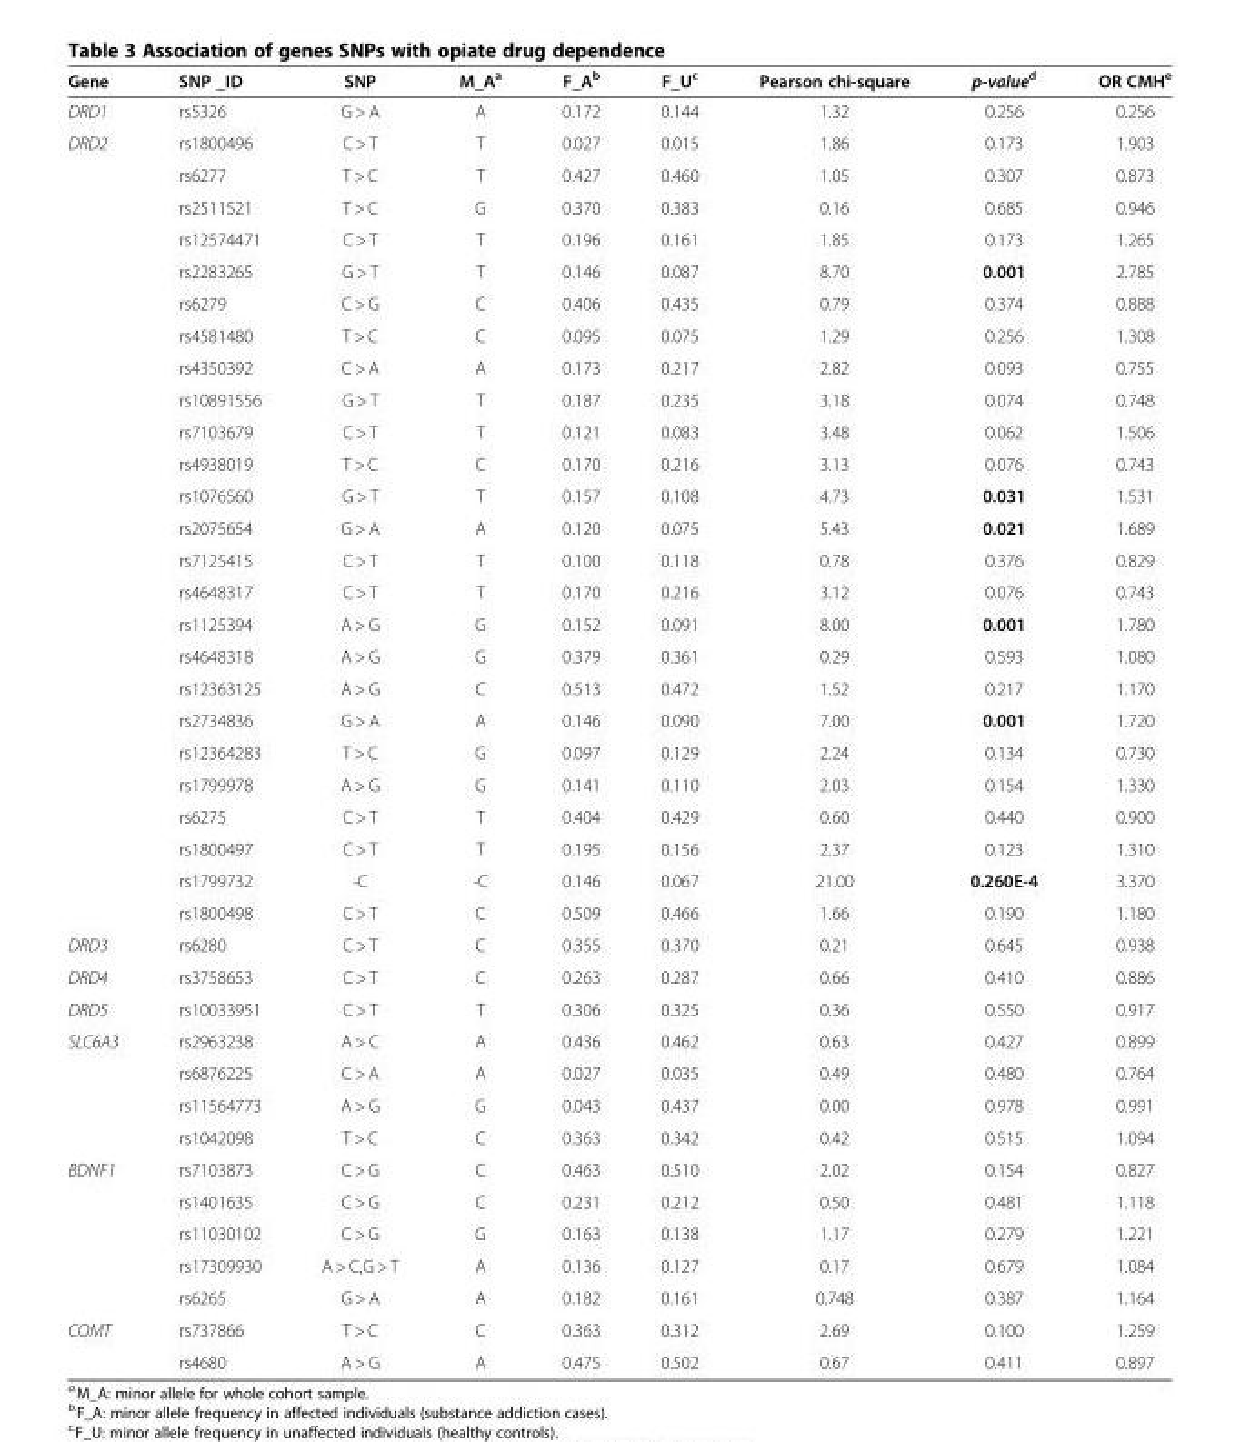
<table><thead><tr><td>Gene</td><td>SNP _ID</td><td>SNP</td><td>M_A<sup>a</sup></td><td>F_A<sup>b</sup></td><td>F_U<sup>c</sup></td><td>Pearson chi-square</td><td>p-value<sup>d</sup></td><td>OR CMH<sup>e</sup></td></tr></thead><tbody><tr><td>DRD1</td><td>rs5326</td><td>G &gt; A</td><td>A</td><td>0.172</td><td>0.144</td><td>1.32</td><td>0.256</td><td>0.256</td></tr><tr><td rowspan="25">DRD2</td><td>rs1800496</td><td>C &gt; T</td><td>T</td><td>0.027</td><td>0.015</td><td>1.86</td><td>0.173</td><td>1.903</td></tr><tr><td>rs6277</td><td>T &gt; C</td><td>T</td><td>0.427</td><td>0.460</td><td>1.05</td><td>0.307</td><td>0.873</td></tr><tr><td>rs2511521</td><td>T &gt; C</td><td>G</td><td>0.370</td><td>0.383</td><td>0.16</td><td>0.685</td><td>0.946</td></tr><tr><td>rs12574471</td><td>C &gt; T</td><td>T</td><td>0.196</td><td>0.161</td><td>1.85</td><td>0.173</td><td>1.265</td></tr><tr><td>rs2283265</td><td>G &gt; T</td><td>T</td><td>0.146</td><td>0.087</td><td>8.70</td><td>0.001</td><td>2.785</td></tr><tr><td>rs6279</td><td>C &gt; G</td><td>C</td><td>0.406</td><td>0.435</td><td>0.79</td><td>0.374</td><td>0.888</td></tr><tr><td>rs4581480</td><td>T &gt; C</td><td>C</td><td>0.095</td><td>0.075</td><td>1.29</td><td>0.256</td><td>1.308</td></tr><tr><td>rs4350392</td><td>C &gt; A</td><td>A</td><td>0.173</td><td>0.217</td><td>2.82</td><td>0.093</td><td>0.755</td></tr><tr><td>rs10891556</td><td>G &gt; T</td><td>T</td><td>0.187</td><td>0.235</td><td>3.18</td><td>0.074</td><td>0.748</td></tr><tr><td>rs7103679</td><td>C &gt; T</td><td>T</td><td>0.121</td><td>0.083</td><td>3.48</td><td>0.062</td><td>1.506</td></tr><tr><td>rs4938019</td><td>T &gt; C</td><td>C</td><td>0.170</td><td>0.216</td><td>3.13</td><td>0.076</td><td>0.743</td></tr><tr><td>rs1076560</td><td>G &gt; T</td><td>T</td><td>0.157</td><td>0.108</td><td>4.73</td><td>0.031</td><td>1.531</td></tr><tr><td>rs2075654</td><td>G &gt; A</td><td>A</td><td>0.120</td><td>0.075</td><td>5.43</td><td>0.021</td><td>1.689</td></tr><tr><td>rs7125415</td><td>C &gt; T</td><td>T</td><td>0.100</td><td>0.118</td><td>0.78</td><td>0.376</td><td>0.829</td></tr><tr><td>rs4648317</td><td>C &gt; T</td><td>T</td><td>0.170</td><td>0.216</td><td>3.12</td><td>0.076</td><td>0.743</td></tr><tr><td>rs1125394</td><td>A &gt; G</td><td>G</td><td>0.152</td><td>0.091</td><td>8.00</td><td>0.001</td><td>1.780</td></tr><tr><td>rs4648318</td><td>A &gt; G</td><td>G</td><td>0.379</td><td>0.361</td><td>0.29</td><td>0.593</td><td>1.080</td></tr><tr><td>rs12363125</td><td>A &gt; G</td><td>C</td><td>0.513</td><td>0.472</td><td>1.52</td><td>0.217</td><td>1.170</td></tr><tr><td>rs2734836</td><td>G &gt; A</td><td>A</td><td>0.146</td><td>0.090</td><td>7.00</td><td>0.001</td><td>1.720</td></tr><tr><td>rs12364283</td><td>T &gt; C</td><td>G</td><td>0.097</td><td>0.129</td><td>2.24</td><td>0.134</td><td>0.730</td></tr><tr><td>rs1799978</td><td>A &gt; G</td><td>G</td><td>0.141</td><td>0.110</td><td>2.03</td><td>0.154</td><td>1.330</td></tr><tr><td>rs6275</td><td>C &gt; T</td><td>T</td><td>0.404</td><td>0.429</td><td>0.60</td><td>0.440</td><td>0.900</td></tr><tr><td>rs1800497</td><td>C &gt; T</td><td>T</td><td>0.195</td><td>0.156</td><td>2.37</td><td>0.123</td><td>1.310</td></tr><tr><td>rs1799732</td><td>-C</td><td>-C</td><td>0.146</td><td>0.067</td><td>21.00</td><td>0.260E-4</td><td>3.370</td></tr><tr><td>rs1800498</td><td>C &gt; T</td><td>C</td><td>0.509</td><td>0.466</td><td>1.66</td><td>0.190</td><td>1.180</td></tr><tr><td>DRD3</td><td>rs6280</td><td>C &gt; T</td><td>C</td><td>0.355</td><td>0.370</td><td>0.21</td><td>0.645</td><td>0.938</td></tr><tr><td>DRD4</td><td>rs3758653</td><td>C &gt; T</td><td>C</td><td>0.263</td><td>0.287</td><td>0.66</td><td>0.410</td><td>0.886</td></tr><tr><td>DRD5</td><td>rs10033951</td><td>C &gt; T</td><td>T</td><td>0.306</td><td>0.325</td><td>0.36</td><td>0.550</td><td>0.917</td></tr><tr><td rowspan="4">SLC6A3</td><td>rs2963238</td><td>A &gt; C</td><td>A</td><td>0.436</td><td>0.462</td><td>0.63</td><td>0.427</td><td>0.899</td></tr><tr><td>rs6876225</td><td>C &gt; A</td><td>A</td><td>0.027</td><td>0.035</td><td>0.49</td><td>0.480</td><td>0.764</td></tr><tr><td>rs11564773</td><td>A &gt; G</td><td>G</td><td>0.043</td><td>0.437</td><td>0.00</td><td>0.978</td><td>0.991</td></tr><tr><td>rs1042098</td><td>T &gt; C</td><td>C</td><td>0.363</td><td>0.342</td><td>0.42</td><td>0.515</td><td>1.094</td></tr><tr><td rowspan="5">BDNF1</td><td>rs7103873</td><td>C &gt; G</td><td>C</td><td>0.463</td><td>0.510</td><td>2.02</td><td>0.154</td><td>0.827</td></tr><tr><td>rs1401635</td><td>C &gt; G</td><td>C</td><td>0.231</td><td>0.212</td><td>0.50</td><td>0.481</td><td>1.118</td></tr><tr><td>rs11030102</td><td>C &gt; G</td><td>G</td><td>0.163</td><td>0.138</td><td>1.17</td><td>0.279</td><td>1.221</td></tr><tr><td>rs17309930</td><td>A &gt; C,G &gt; T</td><td>A</td><td>0.136</td><td>0.127</td><td>0.17</td><td>0.679</td><td>1.084</td></tr><tr><td>rs6265</td><td>G &gt; A</td><td>A</td><td>0.182</td><td>0.161</td><td>0.748</td><td>0.387</td><td>1.164</td></tr><tr><td rowspan="2">COMT</td><td>rs737866</td><td>T &gt; C</td><td>C</td><td>0.363</td><td>0.312</td><td>2.69</td><td>0.100</td><td>1.259</td></tr><tr><td>rs4680</td><td>A &gt; G</td><td>A</td><td>0.475</td><td>0.502</td><td>0.67</td><td>0.411</td><td>0.897</td></tr></tbody></table>